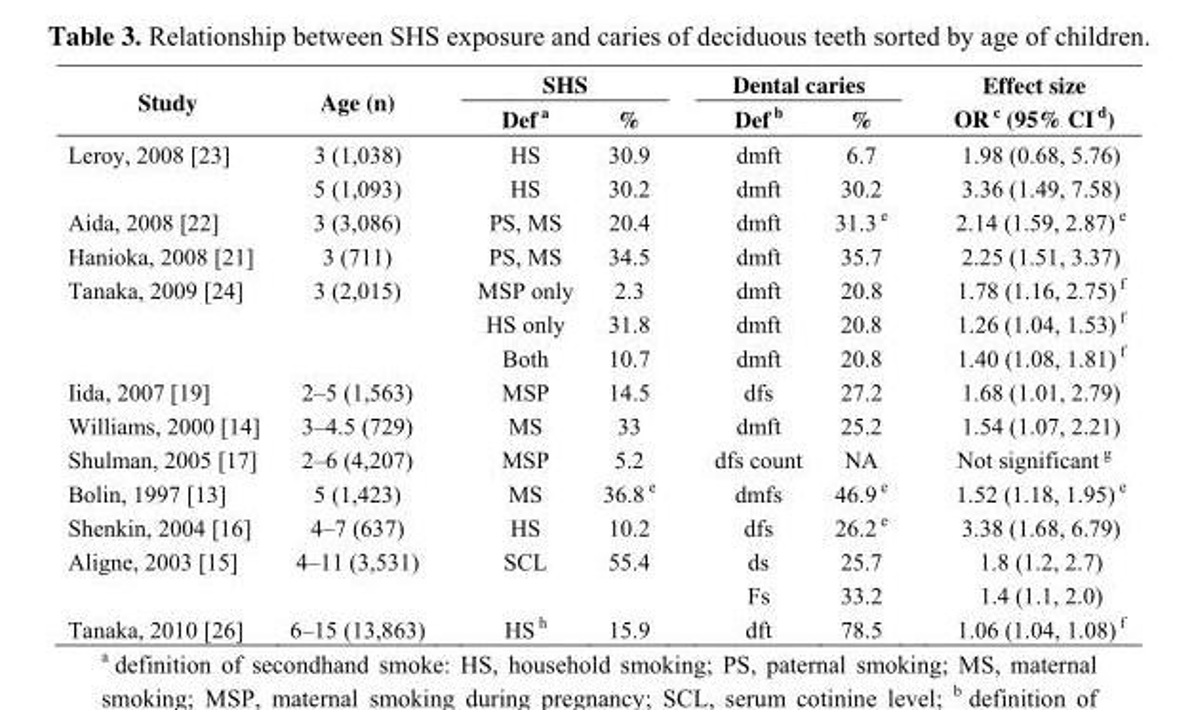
<table><thead><tr><td rowspan="2">Study</td><td rowspan="2">Age (n)</td><td colspan="2">SHS</td><td colspan="2">Dental caries</td><td rowspan="2">Effect size OR <sup>c</sup> (95% CI <sup>d</sup>)</td></tr><tr><td>Def <sup>a</sup></td><td>%</td><td>Def <sup>b</sup></td><td>%</td></tr></thead><tbody><tr><td rowspan="2">Leroy, 2008 [23]</td><td>3 (1,038)</td><td>HS</td><td>30.9</td><td>dmft</td><td>6.7</td><td>1.98 (0.68, 5.76)</td></tr><tr><td>5 (1,093)</td><td>HS</td><td>30.2</td><td>dmft</td><td>30.2</td><td>3.36 (1.49, 7.58)</td></tr><tr><td>Aida, 2008 [22]</td><td>3 (3,086)</td><td>PS, MS</td><td>20.4</td><td>dmft</td><td>31.3 <sup>e</sup></td><td>2.14 (1.59, 2.87) <sup>e</sup></td></tr><tr><td>Hanioka, 2008 [21]</td><td>3 (711)</td><td>PS, MS</td><td>34.5</td><td>dmft</td><td>35.7</td><td>2.25 (1.51, 3.37)</td></tr><tr><td rowspan="3">Tanaka, 2009 [24]</td><td>3 (2,015)</td><td>MSP only</td><td>2.3</td><td>dmft</td><td>20.8</td><td>1.78 (1.16, 2.75) <sup>f</sup></td></tr><tr><td></td><td>HS only</td><td>31.8</td><td>dmft</td><td>20.8</td><td>1.26 (1.04, 1.53) <sup>f</sup></td></tr><tr><td></td><td>Both</td><td>10.7</td><td>dmft</td><td>20.8</td><td>1.40 (1.08, 1.81) <sup>f</sup></td></tr><tr><td>Iida, 2007 [19]</td><td>2–5 (1,563)</td><td>MSP</td><td>14.5</td><td>dfs</td><td>27.2</td><td>1.68 (1.01, 2.79)</td></tr><tr><td>Williams, 2000 [14]</td><td>3–4.5 (729)</td><td>MS</td><td>33</td><td>dmft</td><td>25.2</td><td>1.54 (1.07, 2.21)</td></tr><tr><td>Shulman, 2005 [17]</td><td>2–6 (4,207)</td><td>MSP</td><td>5.2</td><td>dfs count</td><td>NA</td><td>Not significant <sup>g</sup></td></tr><tr><td>Bolin, 1997 [13]</td><td>5 (1,423)</td><td>MS</td><td>36.8 <sup>e</sup></td><td>dmfs</td><td>46.9 <sup>e</sup></td><td>1.52 (1.18, 1.95) <sup>e</sup></td></tr><tr><td>Shenkin, 2004 [16]</td><td>4–7 (637)</td><td>HS</td><td>10.2</td><td>dfs</td><td>26.2 <sup>e</sup></td><td>3.38 (1.68, 6.79)</td></tr><tr><td rowspan="2">Aligne, 2003 [15]</td><td>4–11 (3,531)</td><td>SCL</td><td>55.4</td><td>ds</td><td>25.7</td><td>1.8 (1.2, 2.7)</td></tr><tr><td></td><td></td><td></td><td>Fs</td><td>33.2</td><td>1.4 (1.1, 2.0)</td></tr><tr><td>Tanaka, 2010 [26]</td><td>6–15 (13,863)</td><td>HS <sup>h</sup></td><td>15.9</td><td>dft</td><td>78.5</td><td>1.06 (1.04, 1.08) <sup>f</sup></td></tr></tbody></table>